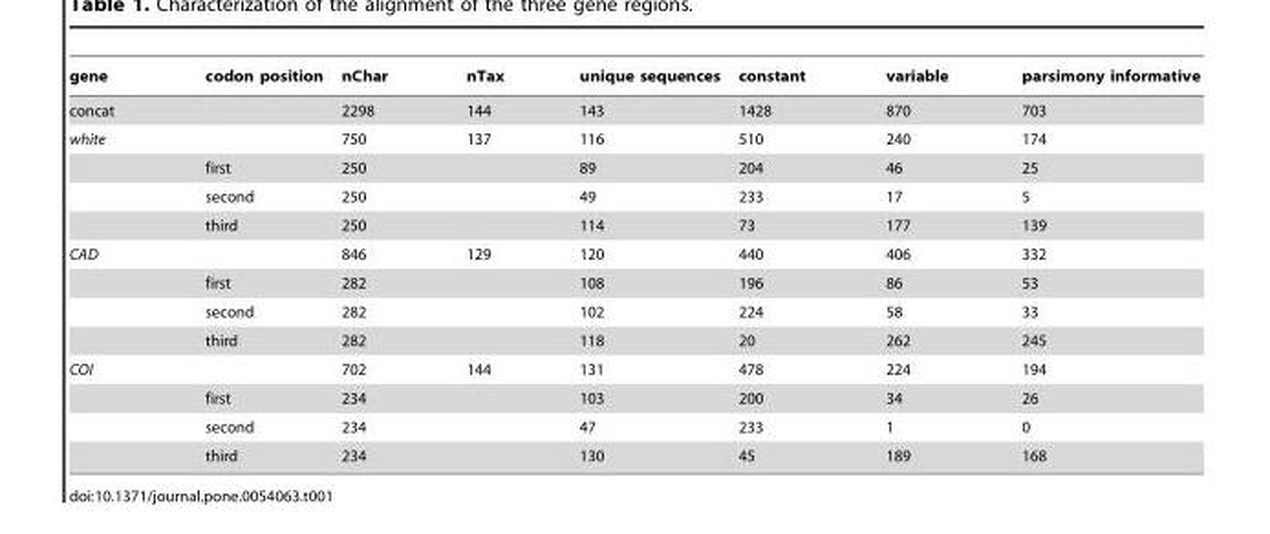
<table><thead><tr><td>gene</td><td>codon position</td><td>nChar</td><td>nTax</td><td>unique sequences</td><td>constant</td><td>variable</td><td>parsimony informative</td></tr></thead><tbody><tr><td>concat</td><td></td><td>2298</td><td>144</td><td>143</td><td>1428</td><td>870</td><td>703</td></tr><tr><td rowspan="4">white</td><td></td><td>750</td><td>137</td><td>116</td><td>510</td><td>240</td><td>174</td></tr><tr><td>first</td><td>250</td><td></td><td>89</td><td>204</td><td>46</td><td>25</td></tr><tr><td>second</td><td>250</td><td></td><td>49</td><td>233</td><td>17</td><td>5</td></tr><tr><td>third</td><td>250</td><td></td><td>114</td><td>73</td><td>177</td><td>139</td></tr><tr><td rowspan="4">CAD</td><td></td><td>846</td><td>129</td><td>120</td><td>440</td><td>406</td><td>332</td></tr><tr><td>first</td><td>282</td><td></td><td>108</td><td>196</td><td>86</td><td>53</td></tr><tr><td>second</td><td>282</td><td></td><td>102</td><td>224</td><td>58</td><td>33</td></tr><tr><td>third</td><td>282</td><td></td><td>118</td><td>20</td><td>262</td><td>245</td></tr><tr><td rowspan="4">COI</td><td></td><td>702</td><td>144</td><td>131</td><td>478</td><td>224</td><td>194</td></tr><tr><td>first</td><td>234</td><td></td><td>103</td><td>200</td><td>34</td><td>26</td></tr><tr><td>second</td><td>234</td><td></td><td>47</td><td>233</td><td>1</td><td>0</td></tr><tr><td>third</td><td>234</td><td></td><td>130</td><td>45</td><td>189</td><td>168</td></tr></tbody></table>